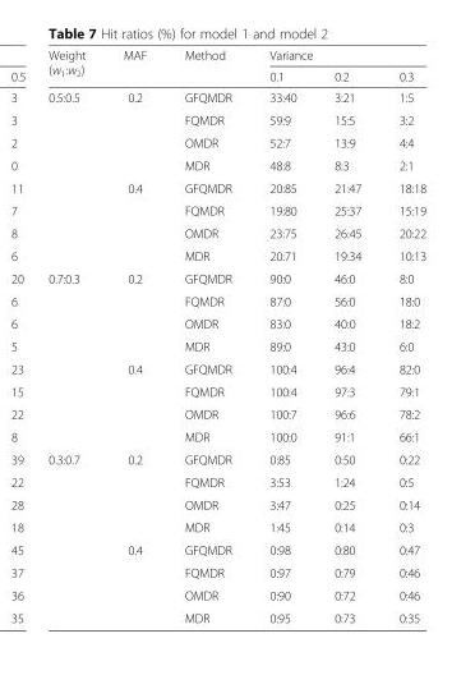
<table><thead><tr><td rowspan="2">Weight (w<sub>1</sub>:w<sub>2</sub>)</td><td rowspan="2">MAF</td><td rowspan="2">Method</td><td colspan="3">Variance</td></tr><tr><td>0.1</td><td>0.2</td><td>0.3</td></tr></thead><tbody><tr><td rowspan="8">0.5:0.5</td><td rowspan="4">0.2</td><td>GFQMDR</td><td>33:40</td><td>3:21</td><td>1:5</td></tr><tr><td>FQMDR</td><td>59:9</td><td>15:5</td><td>3:2</td></tr><tr><td>OMDR</td><td>52:7</td><td>13:9</td><td>4:4</td></tr><tr><td>MDR</td><td>48:8</td><td>8:3</td><td>2:1</td></tr><tr><td rowspan="4">0.4</td><td>GFQMDR</td><td>20:85</td><td>21:47</td><td>18:18</td></tr><tr><td>FQMDR</td><td>19:80</td><td>25:37</td><td>15:19</td></tr><tr><td>OMDR</td><td>23:75</td><td>26:45</td><td>20:22</td></tr><tr><td>MDR</td><td>20:71</td><td>19:34</td><td>10:13</td></tr><tr><td rowspan="8">0.7:0.3</td><td rowspan="4">0.2</td><td>GFQMDR</td><td>90:0</td><td>46:0</td><td>8:0</td></tr><tr><td>FQMDR</td><td>87:0</td><td>56:0</td><td>18:0</td></tr><tr><td>OMDR</td><td>83:0</td><td>40:0</td><td>18:2</td></tr><tr><td>MDR</td><td>89:0</td><td>43:0</td><td>6:0</td></tr><tr><td rowspan="4">0.4</td><td>GFQMDR</td><td>100:4</td><td>96:4</td><td>82:0</td></tr><tr><td>FQMDR</td><td>100:4</td><td>97:3</td><td>79:1</td></tr><tr><td>OMDR</td><td>100:7</td><td>96:6</td><td>78:2</td></tr><tr><td>MDR</td><td>100:0</td><td>91:1</td><td>66:1</td></tr><tr><td rowspan="8">0.3:0.7</td><td rowspan="4">0.2</td><td>GFQMDR</td><td>0:85</td><td>0:50</td><td>0:22</td></tr><tr><td>FQMDR</td><td>3:53</td><td>1:24</td><td>0:5</td></tr><tr><td>OMDR</td><td>3:47</td><td>0:25</td><td>0:14</td></tr><tr><td>MDR</td><td>1:45</td><td>0:14</td><td>0:3</td></tr><tr><td rowspan="4">0.4</td><td>GFQMDR</td><td>0:98</td><td>0:80</td><td>0:47</td></tr><tr><td>FQMDR</td><td>0:97</td><td>0:79</td><td>0:46</td></tr><tr><td>OMDR</td><td>0:90</td><td>0:72</td><td>0:46</td></tr><tr><td>MDR</td><td>0:95</td><td>0:73</td><td>0:35</td></tr></tbody></table>